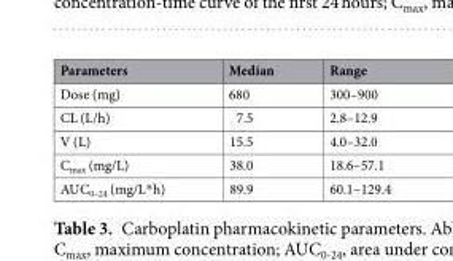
<table><thead><tr><td>Parameters</td><td>Median</td><td>Range</td></tr></thead><tbody><tr><td>Dose (mg)</td><td>680</td><td>300–900</td></tr><tr><td>CL (L/h)</td><td>7.5</td><td>2.8–12.9</td></tr><tr><td>V (L)</td><td>15.5</td><td>4.0–32.0</td></tr><tr><td>C<sub>max</sub> (mg/L)</td><td>38.0</td><td>18.6–57.1</td></tr><tr><td>AUC<sub>0–24</sub> (mg/L*h)</td><td>89.9</td><td>60.1–129.4</td></tr></tbody></table>